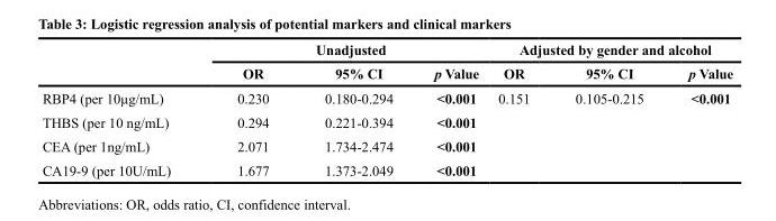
<table><thead><tr><td rowspan="2"></td><td colspan="3">Unadjusted</td><td colspan="3">Adjusted by gender and alcohol</td></tr><tr><td>OR</td><td>95% CI</td><td>p Value</td><td>OR</td><td>95% CI</td><td>p Value</td></tr></thead><tbody><tr><td>RBP4 (per 10μg/mL)</td><td>0.230</td><td>0.180-0.294</td><td>&lt;0.001</td><td>0.151</td><td>0.105-0.215</td><td>&lt;0.001</td></tr><tr><td>THBS (per 10 ng/mL)</td><td>0.294</td><td>0.221-0.394</td><td>&lt;0.001</td><td></td><td></td><td></td></tr><tr><td>CEA (per 1ng/mL)</td><td>2.071</td><td>1.734-2.474</td><td>&lt;0.001</td><td></td><td></td><td></td></tr><tr><td>CA19-9 (per 10U/mL)</td><td>1.677</td><td>1.373-2.049</td><td>&lt;0.001</td><td></td><td></td><td></td></tr></tbody></table>